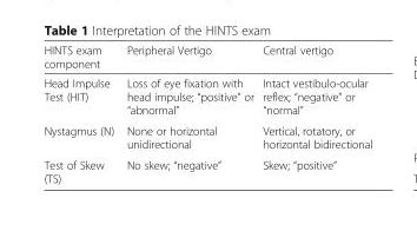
<table><thead><tr><td>HINTS exam component</td><td>Peripheral Vertigo</td><td>Central vertigo</td></tr></thead><tbody><tr><td>Head Impulse Test (HIT)</td><td>Loss of eye fixation with head impulse; “positive” or “abnormal”</td><td>Intact vestibulo-ocular reflex; “negative” or “normal”</td></tr><tr><td>Nystagmus (N)</td><td>None or horizontal unidirectional</td><td>Vertical, rotatory, or horizontal bidirectional</td></tr><tr><td>Test of Skew (TS)</td><td>No skew; “negative”</td><td>Skew; “positive”</td></tr></tbody></table>